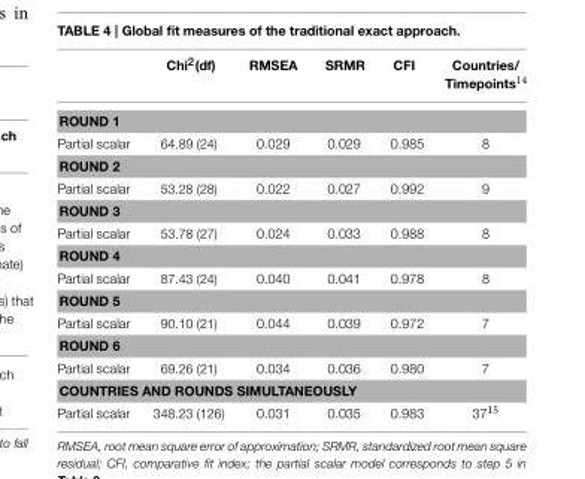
<table><thead><tr><td></td><td>Chi<sup>2</sup>(df)</td><td>RMSEA</td><td>SRMR</td><td>CFI</td><td>Countries/ Timepoints<sup>14</sup></td></tr></thead><tbody><tr><td colspan="6">ROUND 1</td></tr><tr><td>Partial scalar</td><td>64.89 (24)</td><td>0.029</td><td>0.029</td><td>0.985</td><td>8</td></tr><tr><td colspan="6">ROUND 2</td></tr><tr><td>Partial scalar</td><td>53.28 (28)</td><td>0.022</td><td>0.027</td><td>0.992</td><td>9</td></tr><tr><td colspan="6">ROUND 3</td></tr><tr><td>Partial scalar</td><td>53.78 (27)</td><td>0.024</td><td>0.033</td><td>0.988</td><td>8</td></tr><tr><td colspan="6">ROUND 4</td></tr><tr><td>Partial scalar</td><td>87.43 (24)</td><td>0.040</td><td>0.041</td><td>0.978</td><td>8</td></tr><tr><td colspan="6">ROUND 5</td></tr><tr><td>Partial scalar</td><td>90.10 (21)</td><td>0.044</td><td>0.039</td><td>0.972</td><td>7</td></tr><tr><td colspan="6">ROUND 6</td></tr><tr><td>Partial scalar</td><td>69.26 (21)</td><td>0.034</td><td>0.036</td><td>0.980</td><td>7</td></tr><tr><td colspan="6">COUNTRIES AND ROUNDS SIMULTANEOUSLY</td></tr><tr><td>Partial scalar</td><td>348.23 (126)</td><td>0.031</td><td>0.035</td><td>0.983</td><td>37<sup>15</sup></td></tr></tbody></table>